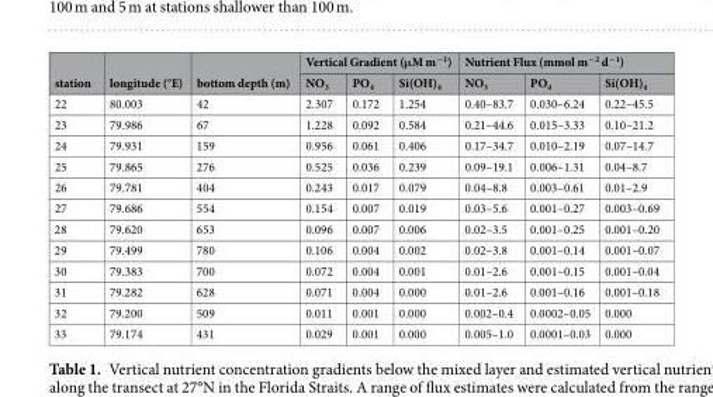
<table><thead><tr><td rowspan="2">station</td><td rowspan="2">longitude (°E)</td><td rowspan="2">bottom depth (m)</td><td colspan="3">Vertical Gradient (μM m<sup>−1</sup>)</td><td colspan="3">Nutrient Flux (mmol m<sup>−2</sup> d<sup>−1</sup>)</td></tr><tr><td>NO<sub>3</sub></td><td>PO<sub>4</sub></td><td>Si(OH)<sub>4</sub></td><td>NO<sub>3</sub></td><td>PO<sub>4</sub></td><td>Si(OH)<sub>4</sub></td></tr></thead><tbody><tr><td>22</td><td>80.003</td><td>42</td><td>2.307</td><td>0.172</td><td>1.254</td><td>0.40–83.7</td><td>0.030–6.24</td><td>0.22–45.5</td></tr><tr><td>23</td><td>79.986</td><td>67</td><td>1.228</td><td>0.092</td><td>0.584</td><td>0.21–44.6</td><td>0.015–3.33</td><td>0.10–21.2</td></tr><tr><td>24</td><td>79.931</td><td>159</td><td>0.956</td><td>0.061</td><td>0.406</td><td>0.17–34.7</td><td>0.010–2.19</td><td>0.07–14.7</td></tr><tr><td>25</td><td>79.865</td><td>276</td><td>0.525</td><td>0.036</td><td>0.239</td><td>0.09–19.1</td><td>0.006–1.31</td><td>0.04–8.7</td></tr><tr><td>26</td><td>79.781</td><td>404</td><td>0.243</td><td>0.017</td><td>0.079</td><td>0.04–8.8</td><td>0.003–0.61</td><td>0.01–2.9</td></tr><tr><td>27</td><td>79.686</td><td>554</td><td>0.154</td><td>0.007</td><td>0.019</td><td>0.03–5.6</td><td>0.001–0.27</td><td>0.003–0.69</td></tr><tr><td>28</td><td>79.620</td><td>653</td><td>0.096</td><td>0.007</td><td>0.006</td><td>0.02–3.5</td><td>0.001–0.25</td><td>0.001–0.20</td></tr><tr><td>29</td><td>79.499</td><td>780</td><td>0.106</td><td>0.004</td><td>0.002</td><td>0.02–3.8</td><td>0.001–0.14</td><td>0.001–0.07</td></tr><tr><td>30</td><td>79.383</td><td>700</td><td>0.072</td><td>0.004</td><td>0.001</td><td>0.01–2.6</td><td>0.001–0.15</td><td>0.001–0.04</td></tr><tr><td>31</td><td>79.282</td><td>628</td><td>0.071</td><td>0.004</td><td>0.000</td><td>0.01–2.6</td><td>0.001–0.16</td><td>0.001–0.18</td></tr><tr><td>32</td><td>79.200</td><td>509</td><td>0.011</td><td>0.001</td><td>0.000</td><td>0.002–0.4</td><td>0.0002–0.05</td><td>0.000</td></tr><tr><td>33</td><td>79.174</td><td>431</td><td>0.029</td><td>0.001</td><td>0.000</td><td>0.005–1.0</td><td>0.0001–0.03</td><td>0.000</td></tr></tbody></table>